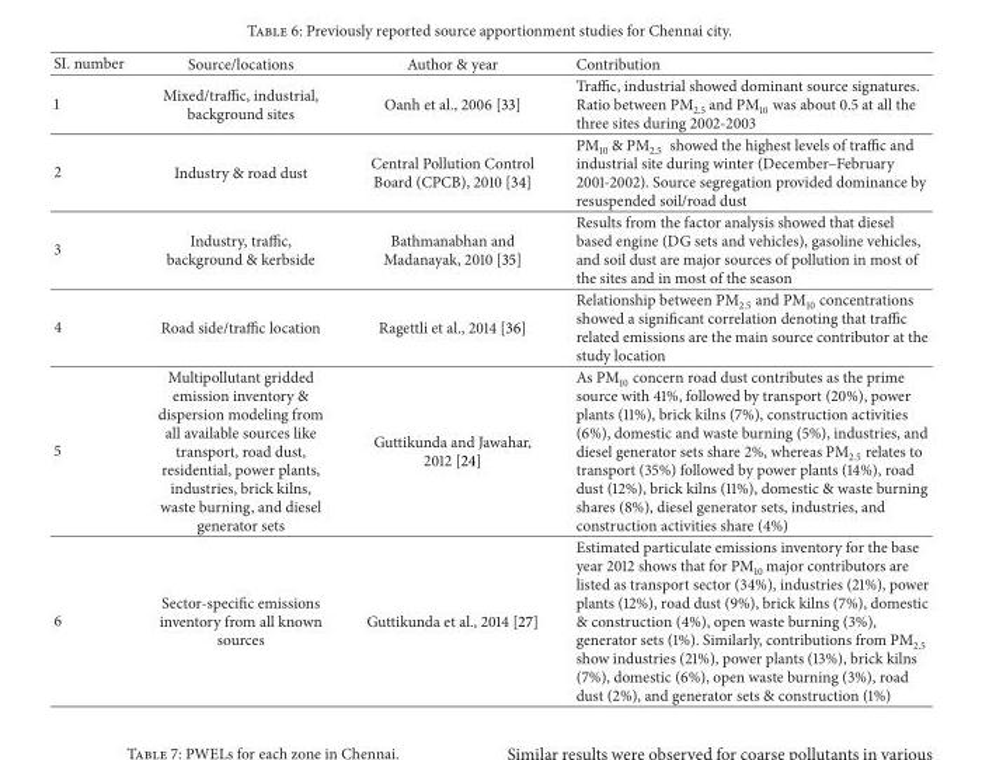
<table><thead><tr><td>SI. number</td><td>Source/locations</td><td>Author &amp; year</td><td>Contribution</td></tr></thead><tbody><tr><td>1</td><td>Mixed/traffic, industrial, background sites</td><td>Oanh et al., 2006 [33]</td><td>Traffic, industrial showed dominant source signatures. Ratio between PM<sub>2.5</sub> and PM<sub>10</sub> was about 0.5 at all the three sites during 2002-2003</td></tr><tr><td>2</td><td>Industry &amp; road dust</td><td>Central Pollution Control Board (CPCB), 2010 [34]</td><td>PM<sub>10</sub> &amp; PM<sub>2.5</sub> showed the highest levels of traffic and industrial site during winter (December–February 2001-2002). Source segregation provided dominance by resuspended soil/road dust</td></tr><tr><td>3</td><td>Industry, traffic, background &amp; kerbside</td><td>Bathmanabhan and Madanayak, 2010 [35]</td><td>Results from the factor analysis showed that diesel based engine (DG sets and vehicles), gasoline vehicles, and soil dust are major sources of pollution in most of the sites and in most of the season</td></tr><tr><td>4</td><td>Road side/traffic location</td><td>Ragettli et al., 2014 [36]</td><td>Relationship between PM<sub>2.5</sub> and PM<sub>10</sub> concentrations showed a significant correlation denoting that traffic related emissions are the main source contributor at the study location</td></tr><tr><td>5</td><td>Multipollutant gridded emission inventory &amp; dispersion modeling from all available sources like transport, road dust, residential, power plants, industries, brick kilns, waste burning, and diesel generator sets</td><td>Guttikunda and Jawahar, 2012 [24]</td><td>As PM<sub>10</sub> concern road dust contributes as the prime source with 41%, followed by transport (20%), power plants (11%), brick kilns (7%), construction activities (6%), domestic and waste burning (5%), industries, and diesel generator sets share 2%, whereas PM<sub>2.5</sub> relates to transport (35%) followed by power plants (14%), road dust (12%), brick kilns (11%), domestic &amp; waste burning shares (8%), diesel generator sets, industries, and construction activities share (4%)</td></tr><tr><td>6</td><td>Sector-specific emissions inventory from all known sources</td><td>Guttikunda et al., 2014 [27]</td><td>Estimated particulate emissions inventory for the base year 2012 shows that for PM<sub>10</sub> major contributors are listed as transport sector (34%), industries (21%), power plants (12%), road dust (9%), brick kilns (7%), domestic &amp; construction (4%), open waste burning (3%), generator sets (1%). Similarly, contributions from PM<sub>2.5</sub> show industries (21%), power plants (13%), brick kilns (7%), domestic (6%), open waste burning (3%), road dust (2%), and generator sets &amp; construction (1%)</td></tr></tbody></table>